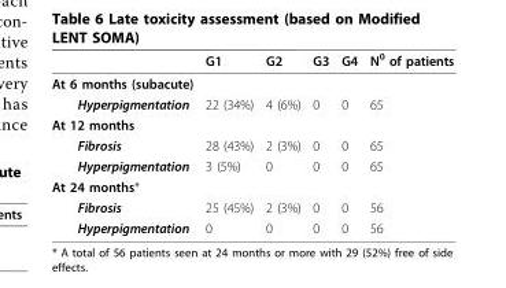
<table><thead><tr><td></td><td>G1</td><td>G2</td><td>G3</td><td>G4</td><td>N<sup>0</sup> of patients</td></tr></thead><tbody><tr><td colspan="6">At 6 months (subacute)</td></tr><tr><td>Hyperpigmentation</td><td>22 (34%)</td><td>4 (6%)</td><td>0</td><td>0</td><td>65</td></tr><tr><td colspan="6">At 12 months</td></tr><tr><td>Fibrosis</td><td>28 (43%)</td><td>2 (3%)</td><td>0</td><td>0</td><td>65</td></tr><tr><td>Hyperpigmentation</td><td>3 (5%)</td><td>0</td><td>0</td><td>0</td><td>65</td></tr><tr><td colspan="6">At 24 months*</td></tr><tr><td>Fibrosis</td><td>25 (45%)</td><td>2 (3%)</td><td>0</td><td>0</td><td>56</td></tr><tr><td>Hyperpigmentation</td><td>0</td><td>0</td><td>0</td><td>0</td><td>56</td></tr></tbody></table>